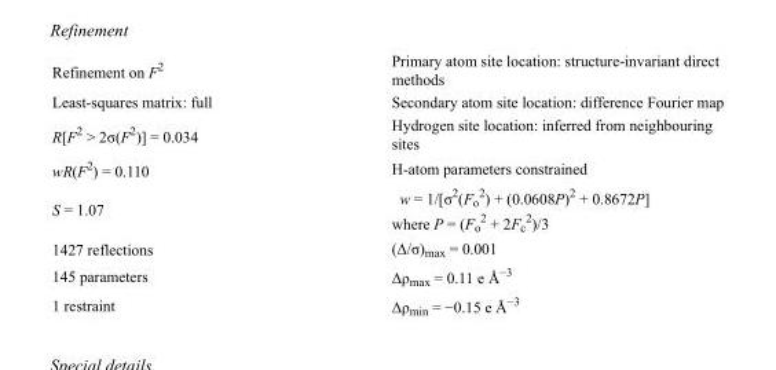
<table><tbody><tr><td>Refinement on F<sup>2</sup></td><td>Primary atom site location: structure-invariant direct methods</td></tr><tr><td>Least-squares matrix: full</td><td>Secondary atom site location: difference Fourier map</td></tr><tr><td>R[F<sup>2</sup> &gt; 2σ(F<sup>2</sup>)] = 0.034</td><td>Hydrogen site location: inferred from neighbouring sites</td></tr><tr><td>wR(F<sup>2</sup>) = 0.110</td><td>H-atom parameters constrained</td></tr><tr><td>S = 1.07</td><td>w = 1/[σ<sup>2</sup>(F<sub>o</sub> <sup>2</sup>) + (0.0608P)<sup>2</sup> + 0.8672P] where P = (F<sub>o</sub> <sup>2</sup> + 2F<sub>c</sub> <sup>2</sup>)/3</td></tr><tr><td>1427 reflections</td><td>(Δ/σ)<sub>max</sub> = 0.001</td></tr><tr><td>145 parameters</td><td>Δρ<sub>max</sub> = 0.11 e Å<sup>−3</sup></td></tr><tr><td>1 restraint</td><td>Δρ<sub>min</sub> = −0.15 e Å<sup>−3</sup></td></tr></tbody></table>